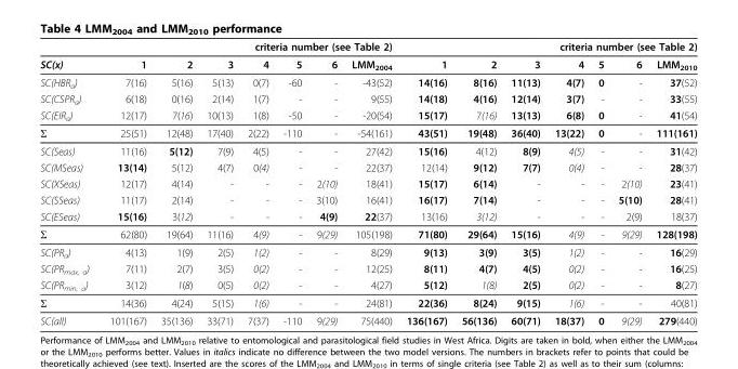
<table><thead><tr><td rowspan="2">SC(x)</td><td colspan="7">criteria number (see Table 2)</td><td colspan="7">criteria number (see Table 2)</td></tr><tr><td>1</td><td>2</td><td>3</td><td>4</td><td>5</td><td>6</td><td>LMM<sub>2004</sub></td><td>1</td><td>2</td><td>3</td><td>4</td><td>5</td><td>6</td><td>LMM<sub>2010</sub></td></tr></thead><tbody><tr><td>SC(HBR<sub>a</sub>)</td><td>7(16)</td><td>5(16)</td><td>5(13)</td><td>0(7)</td><td>-60</td><td>-</td><td>-43(52)</td><td>14(16)</td><td>8(16)</td><td>11(13)</td><td>4(7)</td><td>0</td><td>-</td><td>37(52)</td></tr><tr><td>SC(CSPR<sub>a</sub>)</td><td>6(18)</td><td>0(16)</td><td>2(14)</td><td>1(7)</td><td>-</td><td>-</td><td>9(55)</td><td>14(18)</td><td>4(16)</td><td>12(14)</td><td>3(7)</td><td>-</td><td>-</td><td>33(55)</td></tr><tr><td>SC(EIR<sub>a</sub>)</td><td>12(17)</td><td>7(16)</td><td>10(13)</td><td>1(8)</td><td>-50</td><td>-</td><td>-20(54)</td><td>15(17)</td><td>7(16)</td><td>13(13)</td><td>6(8)</td><td>0</td><td>-</td><td>41(54)</td></tr><tr><td>Σ</td><td>25(51)</td><td>12(48)</td><td>17(40)</td><td>2(22)</td><td>-110</td><td>-</td><td>-54(161)</td><td>43(51)</td><td>19(48)</td><td>36(40)</td><td>13(22)</td><td>0</td><td>-</td><td>111(161)</td></tr><tr><td>SC(Seas)</td><td>11(16)</td><td>5(12)</td><td>7(9)</td><td>4(5)</td><td>-</td><td>-</td><td>27(42)</td><td>15(16)</td><td>4(12)</td><td>8(9)</td><td>4(5)</td><td>-</td><td>-</td><td>31(42)</td></tr><tr><td>SC(MSeas)</td><td>13(14)</td><td>5(12)</td><td>4(7)</td><td>0(4)</td><td>-</td><td>-</td><td>22(37)</td><td>12(14)</td><td>9(12)</td><td>7(7)</td><td>0(4)</td><td>-</td><td>-</td><td>28(37)</td></tr><tr><td>SC(XSeas)</td><td>12(17)</td><td>4(14)</td><td>-</td><td>-</td><td>-</td><td>2(10)</td><td>18(41)</td><td>15(17)</td><td>6(14)</td><td>-</td><td>-</td><td>-</td><td>2(10)</td><td>23(41)</td></tr><tr><td>SC(SSeas)</td><td>11(17)</td><td>2(14)</td><td>-</td><td>-</td><td>-</td><td>3(10)</td><td>16(41)</td><td>16(17)</td><td>7(14)</td><td>-</td><td>-</td><td>-</td><td>5(10)</td><td>28(41)</td></tr><tr><td>SC(ESeas)</td><td>15(16)</td><td>3(12)</td><td>-</td><td>-</td><td>-</td><td>4(9)</td><td>22(37)</td><td>13(16)</td><td>3(12)</td><td>-</td><td>-</td><td>-</td><td>2(9)</td><td>18(37)</td></tr><tr><td>Σ</td><td>62(80)</td><td>19(64)</td><td>11(16)</td><td>4(9)</td><td>-</td><td>9(29)</td><td>105(198)</td><td>71(80)</td><td>29(64)</td><td>15(16)</td><td>4(9)</td><td>-</td><td>9(29)</td><td>128(198)</td></tr><tr><td>SC(PR<sub>a</sub>)</td><td>4(13)</td><td>1(9)</td><td>2(5)</td><td>1(2)</td><td>-</td><td>-</td><td>8(29)</td><td>9(13)</td><td>3(9)</td><td>3(5)</td><td>1(2)</td><td>-</td><td>-</td><td>16(29)</td></tr><tr><td>SC(PR<sub>max, a</sub>)</td><td>7(11)</td><td>2(7)</td><td>3(5)</td><td>0(2)</td><td>-</td><td>-</td><td>12(25)</td><td>8(11)</td><td>4(7)</td><td>4(5)</td><td>0(2)</td><td>-</td><td>-</td><td>16(25)</td></tr><tr><td>SC(PR<sub>min, a</sub>)</td><td>3(12)</td><td>1(8)</td><td>0(5)</td><td>0(2)</td><td>-</td><td>-</td><td>4(27)</td><td>5(12)</td><td>1(8)</td><td>2(5)</td><td>0(2)</td><td>-</td><td>-</td><td>8(27)</td></tr><tr><td>Σ</td><td>14(36)</td><td>4(24)</td><td>5(15)</td><td>1(6)</td><td>-</td><td>-</td><td>24(81)</td><td>22(36)</td><td>8(24)</td><td>9(15)</td><td>1(6)</td><td>-</td><td>-</td><td>40(81)</td></tr><tr><td>SC(all)</td><td>101(167)</td><td>35(136)</td><td>33(71)</td><td>7(37)</td><td>-110</td><td>9(29)</td><td>75(440)</td><td>136(167)</td><td>56(136)</td><td>60(71)</td><td>18(37)</td><td>0</td><td>9(29)</td><td>279(440)</td></tr></tbody></table>